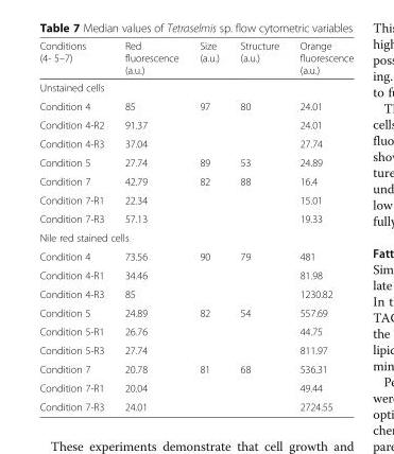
<table><thead><tr><td>Conditions (4- 5–7)</td><td>Red fluorescence (a.u.)</td><td>Size (a.u.)</td><td>Structure (a.u.)</td><td>Orange fluorescence (a.u.)</td></tr></thead><tbody><tr><td colspan="5">Unstained cells</td></tr><tr><td>Condition 4</td><td>85</td><td>97</td><td>80</td><td>24.01</td></tr><tr><td>Condition 4-R2</td><td>91.37</td><td></td><td></td><td>24.01</td></tr><tr><td>Condition 4-R3</td><td>37.04</td><td></td><td></td><td>27.74</td></tr><tr><td>Condition 5</td><td>27.74</td><td>89</td><td>53</td><td>24.89</td></tr><tr><td>Condition 7</td><td>42.79</td><td>82</td><td>88</td><td>16.4</td></tr><tr><td>Condition 7-R1</td><td>22.34</td><td></td><td></td><td>15.01</td></tr><tr><td>Condition 7-R3</td><td>57.13</td><td></td><td></td><td>19.33</td></tr><tr><td colspan="5">Nile red stained cells</td></tr><tr><td>Condition 4</td><td>73.56</td><td>90</td><td>79</td><td>481</td></tr><tr><td>Condition 4-R1</td><td>34.46</td><td></td><td></td><td>81.98</td></tr><tr><td>Condition 4-R3</td><td>85</td><td></td><td></td><td>1230.82</td></tr><tr><td>Condition 5</td><td>24.89</td><td>82</td><td>54</td><td>557.69</td></tr><tr><td>Condition 5-R1</td><td>26.76</td><td></td><td></td><td>44.75</td></tr><tr><td>Condition 5-R3</td><td>27.74</td><td></td><td></td><td>811.97</td></tr><tr><td>Condition 7</td><td>20.78</td><td>81</td><td>68</td><td>536.31</td></tr><tr><td>Condition 7-R1</td><td>20.04</td><td></td><td></td><td>49.44</td></tr><tr><td>Condition 7-R3</td><td>24.01</td><td></td><td></td><td>2724.55</td></tr></tbody></table>